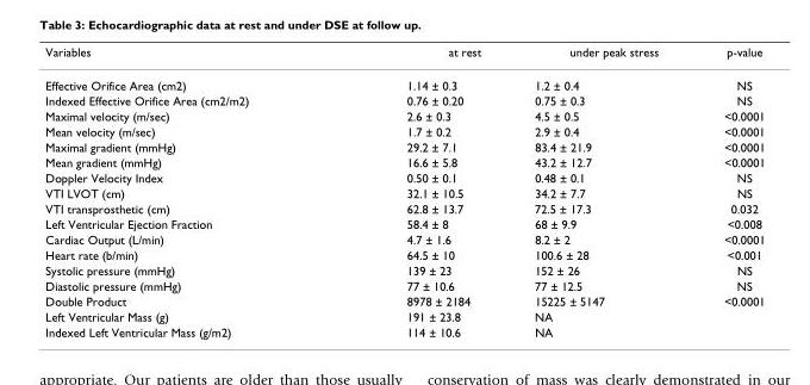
<table><thead><tr><td>Variables</td><td>at rest</td><td>under peak stress</td><td>p-value</td></tr></thead><tbody><tr><td>Effective Orifice Area (cm2)</td><td>1.14 ± 0.3</td><td>1.2 ± 0.4</td><td>NS</td></tr><tr><td>Indexed Effective Orifice Area (cm2/m2)</td><td>0.76 ± 0.20</td><td>0.75 ± 0.3</td><td>NS</td></tr><tr><td>Maximal velocity (m/sec)</td><td>2.6 ± 0.3</td><td>4.5 ± 0.5</td><td>&lt;0.0001</td></tr><tr><td>Mean velocity (m/sec)</td><td>1.7 ± 0.2</td><td>2.9 ± 0.4</td><td>&lt;0.0001</td></tr><tr><td>Maximal gradient (mmHg)</td><td>29.2 ± 7.1</td><td>83.4 ± 21.9</td><td>&lt;0.0001</td></tr><tr><td>Mean gradient (mmHg)</td><td>16.6 ± 5.8</td><td>43.2 ± 12.7</td><td>&lt;0.0001</td></tr><tr><td>Doppler Velocity Index</td><td>0.50 ± 0.1</td><td>0.48 ± 0.1</td><td>NS</td></tr><tr><td>VTI LVOT (cm)</td><td>32.1 ± 10.5</td><td>34.2 ± 7.7</td><td>NS</td></tr><tr><td>VTI transprosthetic (cm)</td><td>62.8 ± 13.7</td><td>72.5 ± 17.3</td><td>0.032</td></tr><tr><td>Left Ventricular Ejection Fraction</td><td>58.4 ± 8</td><td>68 ± 9.9</td><td>&lt;0.008</td></tr><tr><td>Cardiac Output (L/min)</td><td>4.7 ± 1.6</td><td>8.2 ± 2</td><td>&lt;0.0001</td></tr><tr><td>Heart rate (b/min)</td><td>64.5 ± 10</td><td>100.6 ± 28</td><td>&lt;0.001</td></tr><tr><td>Systolic pressure (mmHg)</td><td>139 ± 23</td><td>152 ± 26</td><td>NS</td></tr><tr><td>Diastolic pressure (mmHg)</td><td>77 ± 10.6</td><td>77 ± 12.5</td><td>NS</td></tr><tr><td>Double Product</td><td>8978 ± 2184</td><td>15225 ± 5147</td><td>&lt;0.0001</td></tr><tr><td>Left Ventricular Mass (g)</td><td>191 ± 23.8</td><td>NA</td><td></td></tr><tr><td>Indexed Left Ventricular Mass (g/m2)</td><td>114 ± 10.6</td><td>NA</td><td></td></tr></tbody></table>